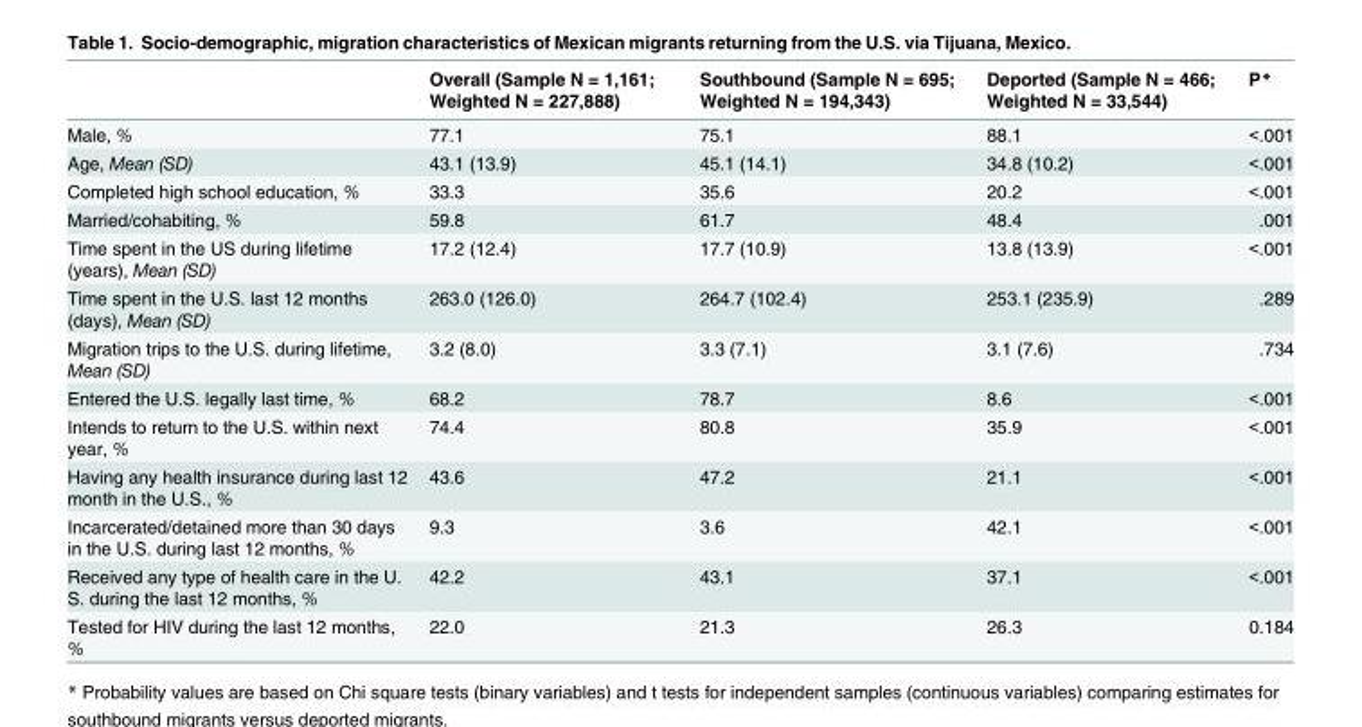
<table><thead><tr><td></td><td>Overall (Sample N = 1,161; Weighted N = 227,888)</td><td>Southbound (Sample N = 695; Weighted N = 194,343)</td><td>Deported (Sample N = 466; Weighted N = 33,544)</td><td>P*</td></tr></thead><tbody><tr><td>Male, %</td><td>77.1</td><td>75.1</td><td>88.1</td><td>&lt;.001</td></tr><tr><td>Age, Mean (SD)</td><td>43.1 (13.9)</td><td>45.1 (14.1)</td><td>34.8 (10.2)</td><td>&lt;.001</td></tr><tr><td>Completed high school education, %</td><td>33.3</td><td>35.6</td><td>20.2</td><td>&lt;.001</td></tr><tr><td>Married/cohabiting, %</td><td>59.8</td><td>61.7</td><td>48.4</td><td>.001</td></tr><tr><td>Time spent in the US during lifetime (years), Mean (SD)</td><td>17.2 (12.4)</td><td>17.7 (10.9)</td><td>13.8 (13.9)</td><td>&lt;.001</td></tr><tr><td>Time spent in the U.S. last 12 months (days), Mean (SD)</td><td>263.0 (126.0)</td><td>264.7 (102.4)</td><td>253.1 (235.9)</td><td>.289</td></tr><tr><td>Migration trips to the U.S. during lifetime, Mean (SD)</td><td>3.2 (8.0)</td><td>3.3 (7.1)</td><td>3.1 (7.6)</td><td>.734</td></tr><tr><td>Entered the U.S. legally last time, %</td><td>68.2</td><td>78.7</td><td>8.6</td><td>&lt;.001</td></tr><tr><td>Intends to return to the U.S. within next year, %</td><td>74.4</td><td>80.8</td><td>35.9</td><td>&lt;.001</td></tr><tr><td>Having any health insurance during last 12 month in the U.S., %</td><td>43.6</td><td>47.2</td><td>21.1</td><td>&lt;.001</td></tr><tr><td>Incarcerated/detained more than 30 days in the U.S. during last 12 months, %</td><td>9.3</td><td>3.6</td><td>42.1</td><td>&lt;.001</td></tr><tr><td>Received any type of health care in the U. S. during the last 12 months, %</td><td>42.2</td><td>43.1</td><td>37.1</td><td>&lt;.001</td></tr><tr><td>Tested for HIV during the last 12 months, %</td><td>22.0</td><td>21.3</td><td>26.3</td><td>0.184</td></tr></tbody></table>